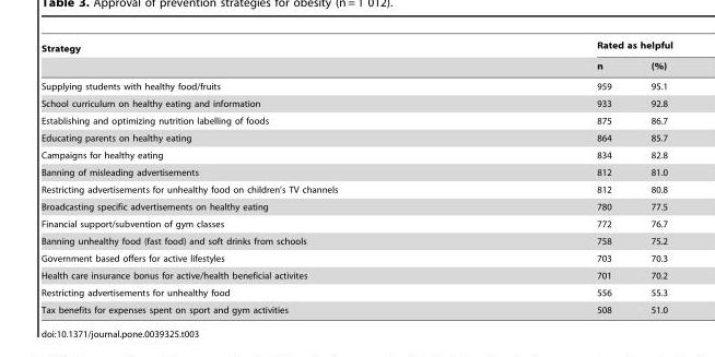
<table><thead><tr><td rowspan="2">Strategy</td><td colspan="2">Rated as helpful</td></tr><tr><td>n</td><td>(%)</td></tr></thead><tbody><tr><td>Supplying students with healthy food/fruits</td><td>959</td><td>95.1</td></tr><tr><td>School curriculum on healthy eating and information</td><td>933</td><td>92.8</td></tr><tr><td>Establishing and optimizing nutrition labelling of foods</td><td>875</td><td>86.7</td></tr><tr><td>Educating parents on healthy eating</td><td>864</td><td>85.7</td></tr><tr><td>Campaigns for healthy eating</td><td>834</td><td>82.8</td></tr><tr><td>Banning of misleading advertisements</td><td>812</td><td>81.0</td></tr><tr><td>Restricting advertisements for unhealthy food on children’s TV channels</td><td>812</td><td>80.8</td></tr><tr><td>Broadcasting specific advertisements on healthy eating</td><td>780</td><td>77.5</td></tr><tr><td>Financial support/subvention of gym classes</td><td>772</td><td>76.7</td></tr><tr><td>Banning unhealthy food (fast food) and soft drinks from schools</td><td>758</td><td>75.2</td></tr><tr><td>Government based offers for active lifestyles</td><td>703</td><td>70.3</td></tr><tr><td>Health care insurance bonus for active/health beneficial activites</td><td>701</td><td>70.2</td></tr><tr><td>Restricting advertisements for unhealthy food</td><td>556</td><td>55.3</td></tr><tr><td>Tax benefits for expenses spent on sport and gym activities</td><td>508</td><td>51.0</td></tr></tbody></table>